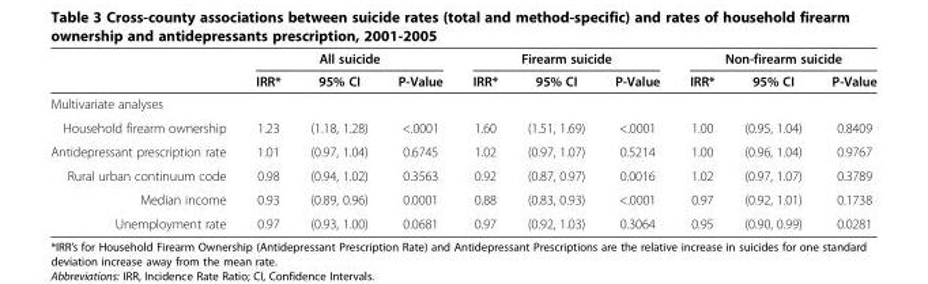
<table><thead><tr><td rowspan="2"></td><td colspan="3">All suicide</td><td colspan="3">Firearm suicide</td><td colspan="3">Non-firearm suicide</td></tr><tr><td>IRR*</td><td>95% CI</td><td>P-Value</td><td>IRR*</td><td>95% CI</td><td>P-Value</td><td>IRR*</td><td>95% CI</td><td>P-Value</td></tr></thead><tbody><tr><td colspan="10">Multivariate analyses</td></tr><tr><td>Household firearm ownership</td><td>1.23</td><td>(1.18, 1.28)</td><td>&lt;.0001</td><td>1.60</td><td>(1.51, 1.69)</td><td>&lt;.0001</td><td>1.00</td><td>(0.95, 1.04)</td><td>0.8409</td></tr><tr><td>Antidepressant prescription rate</td><td>1.01</td><td>(0.97, 1.04)</td><td>0.6745</td><td>1.02</td><td>(0.97, 1.07)</td><td>0.5214</td><td>1.00</td><td>(0.96, 1.04)</td><td>0.9767</td></tr><tr><td>Rural urban continuum code</td><td>0.98</td><td>(0.94, 1.02)</td><td>0.3563</td><td>0.92</td><td>(0.87, 0.97)</td><td>0.0016</td><td>1.02</td><td>(0.97, 1.07)</td><td>0.3789</td></tr><tr><td>Median income</td><td>0.93</td><td>(0.89, 0.96)</td><td>0.0001</td><td>0.88</td><td>(0.83, 0.93)</td><td>&lt;.0001</td><td>0.97</td><td>(0.92, 1.01)</td><td>0.1738</td></tr><tr><td>Unemployment rate</td><td>0.97</td><td>(0.93, 1.00)</td><td>0.0681</td><td>0.97</td><td>(0.92, 1.03)</td><td>0.3064</td><td>0.95</td><td>(0.90, 0.99)</td><td>0.0281</td></tr></tbody></table>